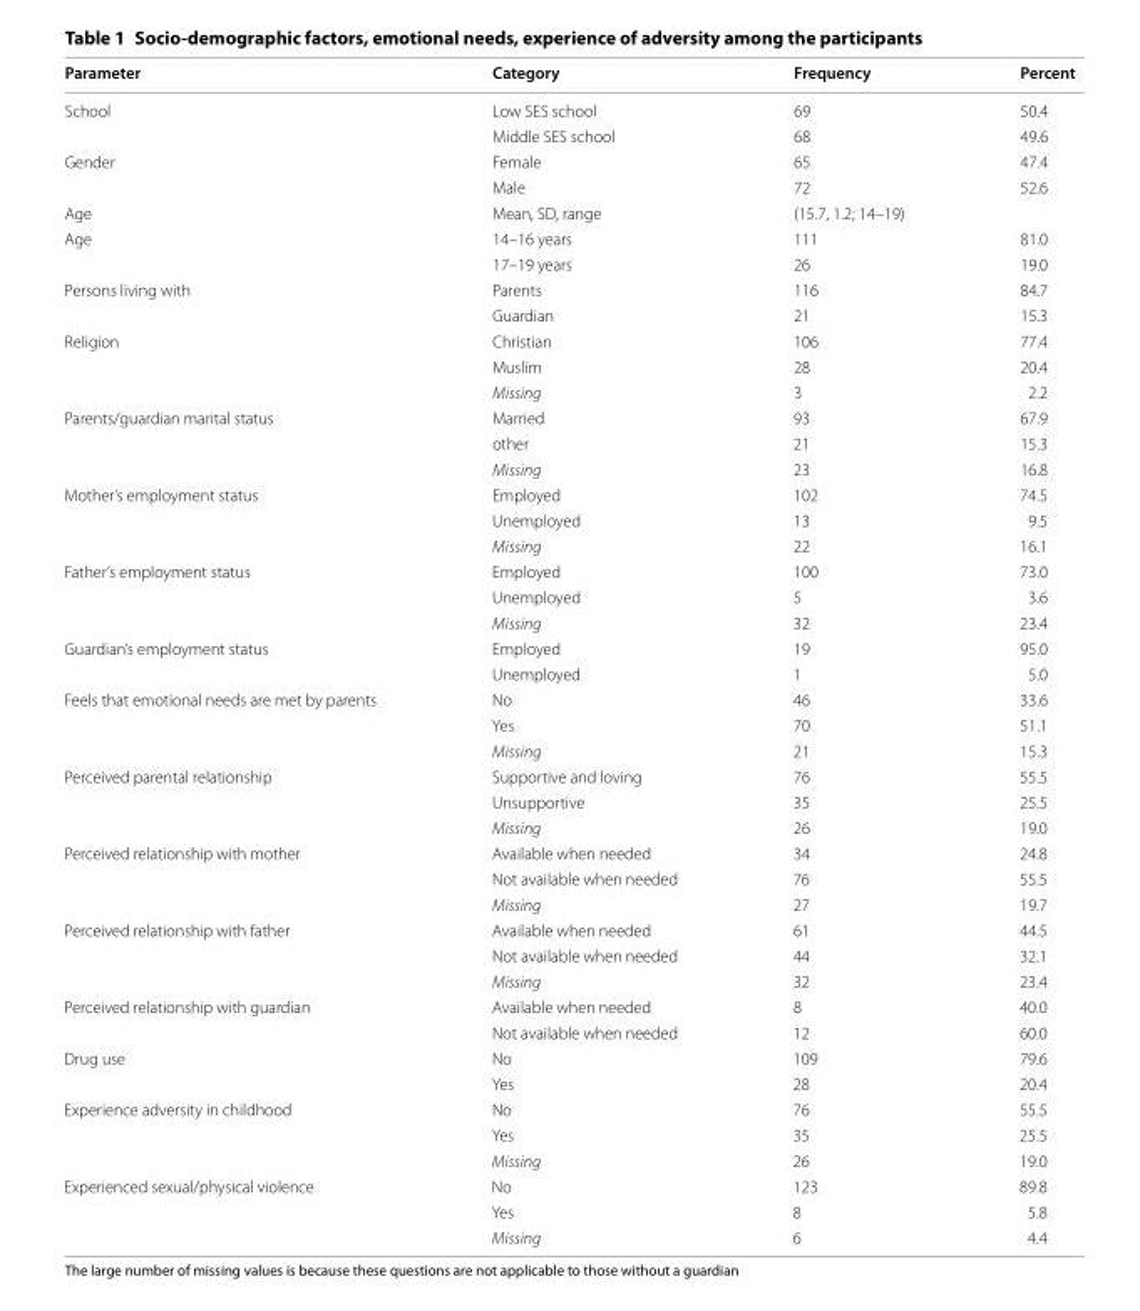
<table><thead><tr><td>Parameter</td><td>Category</td><td>Frequency</td><td>Percent</td></tr></thead><tbody><tr><td rowspan="2">School</td><td>Low SES school</td><td>69</td><td>50.4</td></tr><tr><td>Middle SES school</td><td>68</td><td>49.6</td></tr><tr><td rowspan="2">Gender</td><td>Female</td><td>65</td><td>47.4</td></tr><tr><td>Male</td><td>72</td><td>52.6</td></tr><tr><td>Age</td><td>Mean, SD, range</td><td>(15.7, 1.2; 14–19)</td><td></td></tr><tr><td rowspan="2">Age</td><td>14–16 years</td><td>111</td><td>81.0</td></tr><tr><td>17–19 years</td><td>26</td><td>19.0</td></tr><tr><td rowspan="2">Persons living with</td><td>Parents</td><td>116</td><td>84.7</td></tr><tr><td>Guardian</td><td>21</td><td>15.3</td></tr><tr><td rowspan="3">Religion</td><td>Christian</td><td>106</td><td>77.4</td></tr><tr><td>Muslim</td><td>28</td><td>20.4</td></tr><tr><td>Missing</td><td>3</td><td>2.2</td></tr><tr><td rowspan="3">Parents/guardian marital status</td><td>Married</td><td>93</td><td>67.9</td></tr><tr><td>other</td><td>21</td><td>15.3</td></tr><tr><td>Missing</td><td>23</td><td>16.8</td></tr><tr><td rowspan="3">Mother’s employment status</td><td>Employed</td><td>102</td><td>74.5</td></tr><tr><td>Unemployed</td><td>13</td><td>9.5</td></tr><tr><td>Missing</td><td>22</td><td>16.1</td></tr><tr><td rowspan="3">Father’s employment status</td><td>Employed</td><td>100</td><td>73.0</td></tr><tr><td>Unemployed</td><td>5</td><td>3.6</td></tr><tr><td>Missing</td><td>32</td><td>23.4</td></tr><tr><td rowspan="2">Guardian’s employment status</td><td>Employed</td><td>19</td><td>95.0</td></tr><tr><td>Unemployed</td><td>1</td><td>5.0</td></tr><tr><td rowspan="3">Feels that emotional needs are met by parents</td><td>No</td><td>46</td><td>33.6</td></tr><tr><td>Yes</td><td>70</td><td>51.1</td></tr><tr><td>Missing</td><td>21</td><td>15.3</td></tr><tr><td rowspan="3">Perceived parental relationship</td><td>Supportive and loving</td><td>76</td><td>55.5</td></tr><tr><td>Unsupportive</td><td>35</td><td>25.5</td></tr><tr><td>Missing</td><td>26</td><td>19.0</td></tr><tr><td rowspan="3">Perceived relationship with mother</td><td>Available when needed</td><td>34</td><td>24.8</td></tr><tr><td>Not available when needed</td><td>76</td><td>55.5</td></tr><tr><td>Missing</td><td>27</td><td>19.7</td></tr><tr><td rowspan="3">Perceived relationship with father</td><td>Available when needed</td><td>61</td><td>44.5</td></tr><tr><td>Not available when needed</td><td>44</td><td>32.1</td></tr><tr><td>Missing</td><td>32</td><td>23.4</td></tr><tr><td rowspan="2">Perceived relationship with guardian</td><td>Available when needed</td><td>8</td><td>40.0</td></tr><tr><td>Not available when needed</td><td>12</td><td>60.0</td></tr><tr><td rowspan="2">Drug use</td><td>No</td><td>109</td><td>79.6</td></tr><tr><td>Yes</td><td>28</td><td>20.4</td></tr><tr><td rowspan="3">Experience adversity in childhood</td><td>No</td><td>76</td><td>55.5</td></tr><tr><td>Yes</td><td>35</td><td>25.5</td></tr><tr><td>Missing</td><td>26</td><td>19.0</td></tr><tr><td rowspan="3">Experienced sexual/physical violence</td><td>No</td><td>123</td><td>89.8</td></tr><tr><td>Yes</td><td>8</td><td>5.8</td></tr><tr><td>Missing</td><td>6</td><td>4.4</td></tr></tbody></table>